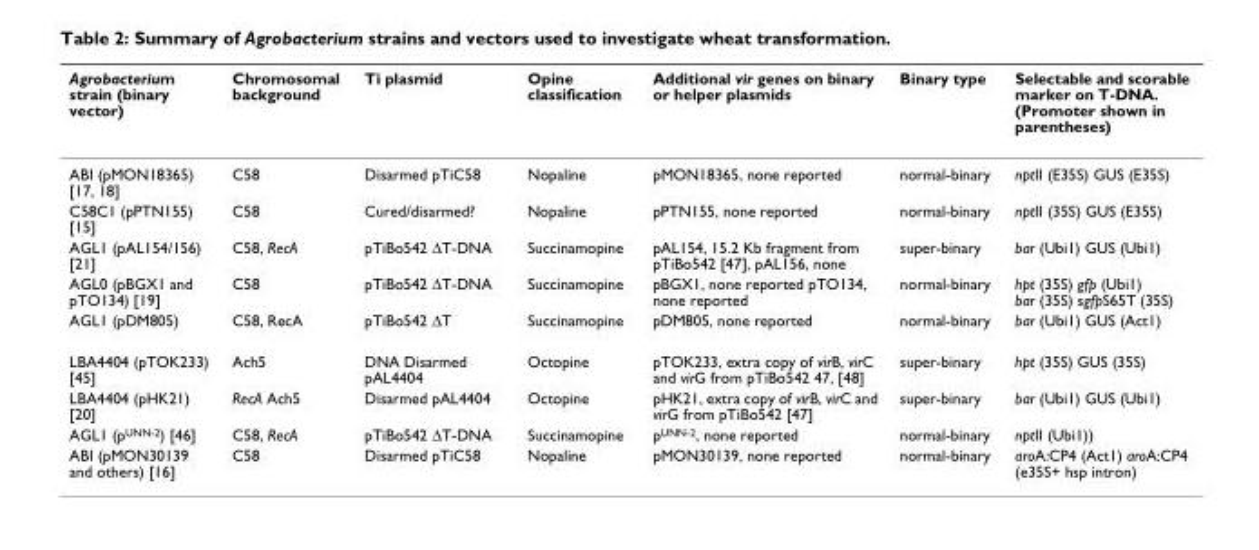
<table><thead><tr><td>Agrobacterium strain (binary vector)</td><td>Chromosomal background</td><td>Ti plasmid</td><td>Opine classification</td><td>Additional vir genes on binary or helper plasmids</td><td>Binary type</td><td>Selectable and scorable marker on T-DNA. (Promoter shown in parentheses)</td></tr></thead><tbody><tr><td>ABI (pMON18365) [17, 18]</td><td>C58</td><td>Disarmed pTiC58</td><td>Nopaline</td><td>pMON18365, none reported</td><td>normal-binary</td><td>nptII (E35S) GUS (E35S)</td></tr><tr><td>C58C1 (pPTN155) [15]</td><td>C58</td><td>Cured/disarmed?</td><td>Nopaline</td><td>pPTN155, none reported</td><td>normal-binary</td><td>nptII (35S) GUS (E35S)</td></tr><tr><td>AGL1 (pAL154/156) [21]</td><td>C58, RecA</td><td>pTiBo542 ∆T-DNA</td><td>Succinamopine</td><td>pAL154, 15.2 Kb fragment from pTiBo542 [47], pAL156, none</td><td>super-binary</td><td>bar (Ubi1) GUS (Ubi1)</td></tr><tr><td>AGL0 (pBGX1 and pTO134) [19]</td><td>C58</td><td>pTiBo542 ∆T-DNA</td><td>Succinamopine</td><td>pBGX1, none reported pTO134, none reported</td><td>normal-binary</td><td>hpt (35S) gfp (Ubi1) bar (35S) sgfpS65T (35S)</td></tr><tr><td>AGL1 (pDM805)</td><td>C58, RecA</td><td>pTiBo542 ∆T</td><td>Succinamopine</td><td>pDM805, none reported</td><td>normal-binary</td><td>bar (Ubi1) GUS (Act1)</td></tr><tr><td>LBA4404 (pTOK233) [45]</td><td>Ach5</td><td>DNA Disarmed pAL4404</td><td>Octopine</td><td>pTOK233, extra copy of virB, virC and virG from pTiBo542 47, [48]</td><td>super-binary</td><td>hpt (35S) GUS (35S)</td></tr><tr><td>LBA4404 (pHK21) [20]</td><td>RecA Ach5</td><td>Disarmed pAL4404</td><td>Octopine</td><td>pHK21, extra copy of virB, virC and virG from pTiBo542 [47]</td><td>super-binary</td><td>bar (Ubi1) GUS (Ubi1)</td></tr><tr><td>AGL1 (p<sup>UNN-2</sup>) [46]</td><td>C58, RecA</td><td>pTiBo542 ∆T-DNA</td><td>Succinamopine</td><td>p<sup>UNN-2</sup>, none reported</td><td>normal-binary</td><td>nptII (Ubi1))</td></tr><tr><td>ABI (pMON30139 and others) [16]</td><td>C58</td><td>Disarmed pTiC58</td><td>Nopaline</td><td>pMON30139, none reported</td><td>normal-binary</td><td>aroA:CP4 (Act1) aroA:CP4 (e35S+ hsp intron)</td></tr></tbody></table>